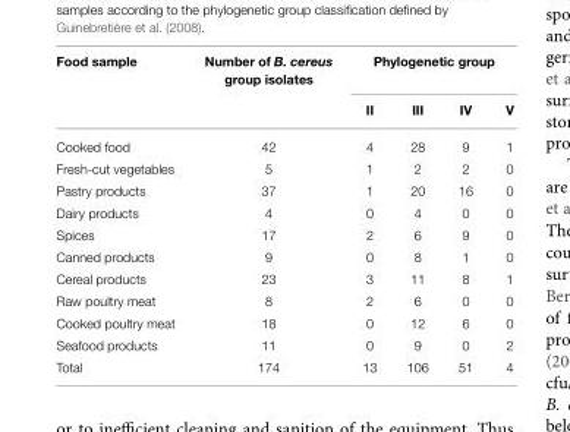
<table><thead><tr><td rowspan="2">Food sample</td><td rowspan="2">Number of B. cereus group isolates</td><td colspan="4">Phylogenetic group</td></tr><tr><td>II</td><td>III</td><td>IV</td><td>V</td></tr></thead><tbody><tr><td>Cooked food</td><td>42</td><td>4</td><td>28</td><td>9</td><td>1</td></tr><tr><td>Fresh-cut vegetables</td><td>5</td><td>1</td><td>2</td><td>2</td><td>0</td></tr><tr><td>Pastry products</td><td>37</td><td>1</td><td>20</td><td>16</td><td>0</td></tr><tr><td>Dairy products</td><td>4</td><td>0</td><td>4</td><td>0</td><td>0</td></tr><tr><td>Spices</td><td>17</td><td>2</td><td>6</td><td>9</td><td>0</td></tr><tr><td>Canned products</td><td>9</td><td>0</td><td>8</td><td>1</td><td>0</td></tr><tr><td>Cereal products</td><td>23</td><td>3</td><td>11</td><td>8</td><td>1</td></tr><tr><td>Raw poultry meat</td><td>8</td><td>2</td><td>6</td><td>0</td><td>0</td></tr><tr><td>Cooked poultry meat</td><td>18</td><td>0</td><td>12</td><td>6</td><td>0</td></tr><tr><td>Seafood products</td><td>11</td><td>0</td><td>9</td><td>0</td><td>2</td></tr><tr><td>Total</td><td>174</td><td>13</td><td>106</td><td>51</td><td>4</td></tr></tbody></table>